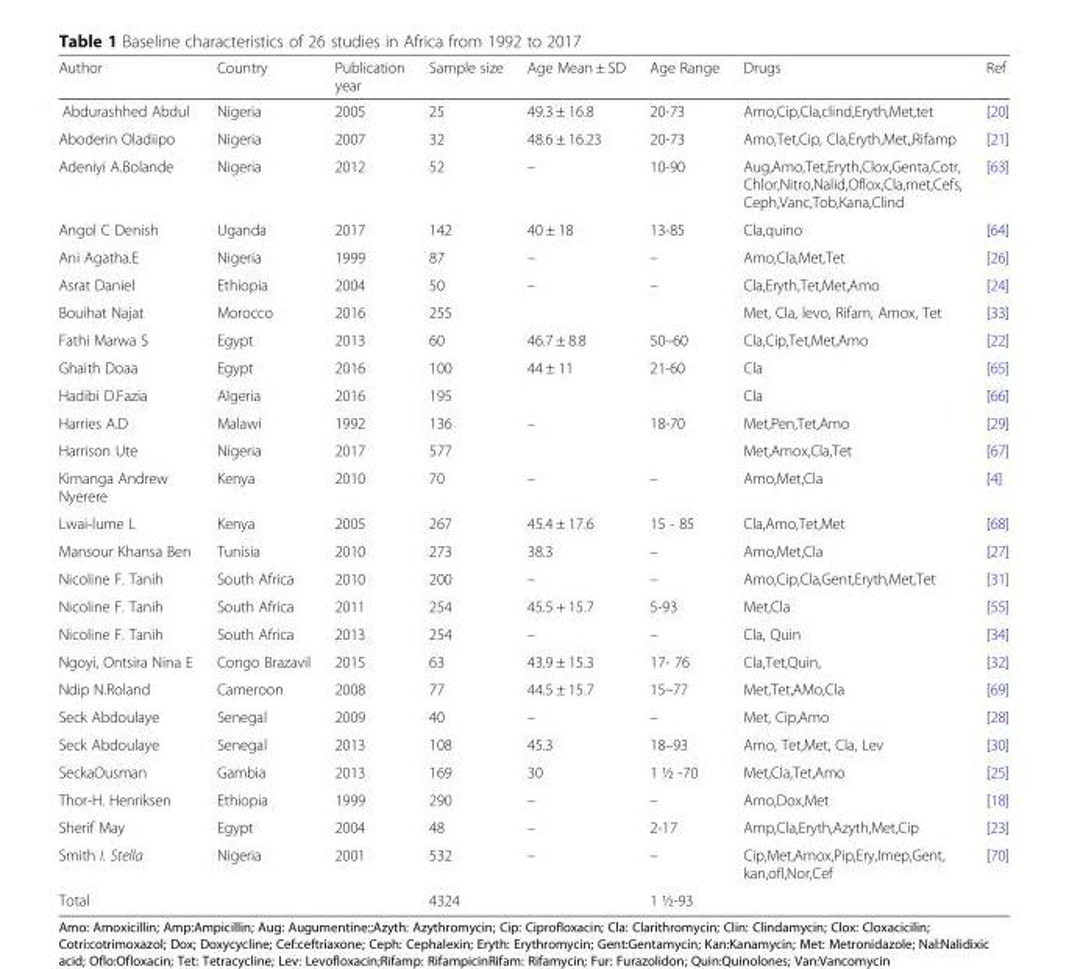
<table><thead><tr><td>Author</td><td>Country</td><td>Publication year</td><td>Sample size</td><td>Age Mean ± SD</td><td>Age Range</td><td>Drugs</td><td>Ref</td></tr></thead><tbody><tr><td>Abdurashhed Abdul</td><td>Nigeria</td><td>2005</td><td>25</td><td>49.3 ± 16.8</td><td>20-73</td><td>Amo,Cip,Cla,clind,Eryth,Met,tet</td><td>[20]</td></tr><tr><td>Aboderin Oladiipo</td><td>Nigeria</td><td>2007</td><td>32</td><td>48.6 ± 16.23</td><td>20-73</td><td>Amo,Tet,Cip, Cla,Eryth,Met,,Rifamp</td><td>[21]</td></tr><tr><td>Adeniyi A.Bolande</td><td>Nigeria</td><td>2012</td><td>52</td><td>–</td><td>10-90</td><td>Aug,Amo,Tet,Eryth,Clox,Genta,Cotr, Chlor,Nitro,Nalid,Oflox,Cla,met,Cefs, Ceph,Vanc,Tob,Kana,Clind</td><td>[63]</td></tr><tr><td>Angol C Denish</td><td>Uganda</td><td>2017</td><td>142</td><td>40 ± 18</td><td>13-85</td><td>Cla,quino</td><td>[64]</td></tr><tr><td>Ani Agatha.E</td><td>Nigeria</td><td>1999</td><td>87</td><td>–</td><td>–</td><td>Amo,Cla,Met,Tet</td><td>[26]</td></tr><tr><td>Asrat Daniel</td><td>Ethiopia</td><td>2004</td><td>50</td><td>–</td><td>–</td><td>Cla,Eryth,Tet,Met,Amo</td><td>[24]</td></tr><tr><td>Bouihat Najat</td><td>Morocco</td><td>2016</td><td>255</td><td></td><td></td><td>Met, Cla, levo, Rifam, Amox, Tet</td><td>[33]</td></tr><tr><td>Fathi Marwa S</td><td>Egypt</td><td>2013</td><td>60</td><td>46.7 ± 8.8</td><td>50–60</td><td>Cla,Cip,Tet,Met,Amo</td><td>[22]</td></tr><tr><td>Ghaith Doaa</td><td>Egypt</td><td>2016</td><td>100</td><td>44 ± 11</td><td>21-60</td><td>Cla</td><td>[65]</td></tr><tr><td>Hadibi D.Fazia</td><td>Algeria</td><td>2016</td><td>195</td><td></td><td></td><td>Cla</td><td>[66]</td></tr><tr><td>Harries A.D</td><td>Malawi</td><td>1992</td><td>136</td><td>–</td><td>18-70</td><td>Met,Pen,Tet,Amo</td><td>[29]</td></tr><tr><td>Harrison Ute</td><td>Nigeria</td><td>2017</td><td>577</td><td></td><td></td><td>Met,Amox,Cla,Tet</td><td>[67]</td></tr><tr><td>Kimanga Andrew Nyerere</td><td>Kenya</td><td>2010</td><td>70</td><td>–</td><td>–</td><td>Amo,Met,Cla</td><td>[4]</td></tr><tr><td>Lwai-lume L</td><td>Kenya</td><td>2005</td><td>267</td><td>45.4 ± 17.6</td><td>15 - 85</td><td>Cla,Amo,Tet,Met</td><td>[68]</td></tr><tr><td>Mansour Khansa Ben</td><td>Tunisia</td><td>2010</td><td>273</td><td>38.3</td><td>–</td><td>Amo,Met,Cla</td><td>[27]</td></tr><tr><td>Nicoline F. Tanih</td><td>South Africa</td><td>2010</td><td>200</td><td>–</td><td>–</td><td>Amo,Cip,Cla,Gent,Eryth,Met,Tet</td><td>[31]</td></tr><tr><td>Nicoline F. Tanih</td><td>South Africa</td><td>2011</td><td>254</td><td>45.5 + 15.7</td><td>5-93</td><td>Met,Cla</td><td>[55]</td></tr><tr><td>Nicoline F. Tanih</td><td>South Africa</td><td>2013</td><td>254</td><td>–</td><td>–</td><td>Cla, Quin</td><td>[34]</td></tr><tr><td>Ngoyi, Ontsira Nina E</td><td>Congo Brazavil</td><td>2015</td><td>63</td><td>43.9 ± 15.3</td><td>17- 76</td><td>Cla,Tet,Quin,</td><td>[32]</td></tr><tr><td>Ndip N.Roland</td><td>Cameroon</td><td>2008</td><td>77</td><td>44.5 ± 15.7</td><td>15–77</td><td>Met,Tet,AMo,Cla</td><td>[69]</td></tr><tr><td>Seck Abdoulaye</td><td>Senegal</td><td>2009</td><td>40</td><td>–</td><td>–</td><td>Met, Cip,Amo</td><td>[28]</td></tr><tr><td>Seck Abdoulaye</td><td>Senegal</td><td>2013</td><td>108</td><td>45.3</td><td>18–93</td><td>Amo, Tet,Met, Cla, Lev</td><td>[30]</td></tr><tr><td>SeckaOusman</td><td>Gambia</td><td>2013</td><td>169</td><td>30</td><td>1 ½ -70</td><td>Met,Cla,Tet,Amo</td><td>[25]</td></tr><tr><td>Thor-H. Henriksen</td><td>Ethiopia</td><td>1999</td><td>290</td><td>–</td><td>–</td><td>Amo,Dox,Met</td><td>[18]</td></tr><tr><td>Sherif May</td><td>Egypt</td><td>2004</td><td>48</td><td>–</td><td>2-17</td><td>Amp,Cla,Eryth,Azyth,Met,Cip</td><td>[23]</td></tr><tr><td>Smith I. Stella</td><td>Nigeria</td><td>2001</td><td>532</td><td>–</td><td>–</td><td>Cip,Met,Amox,Pip,Ery,Imep,Gent, kan,ofl,Nor,Cef</td><td>[70]</td></tr><tr><td>Total</td><td></td><td></td><td>4324</td><td></td><td>1 ½-93</td><td></td><td></td></tr></tbody></table>